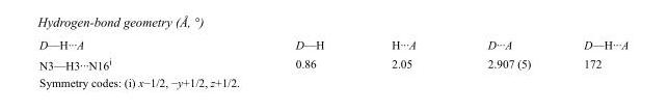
<table><tbody><tr><td>D—H···A</td><td>D—H</td><td>H···A</td><td>D···A</td><td>D—H···A</td></tr><tr><td>N3—H3···N16<sup>i</sup></td><td>0.86</td><td>2.05</td><td>2.907 (5)</td><td>172</td></tr></tbody></table>